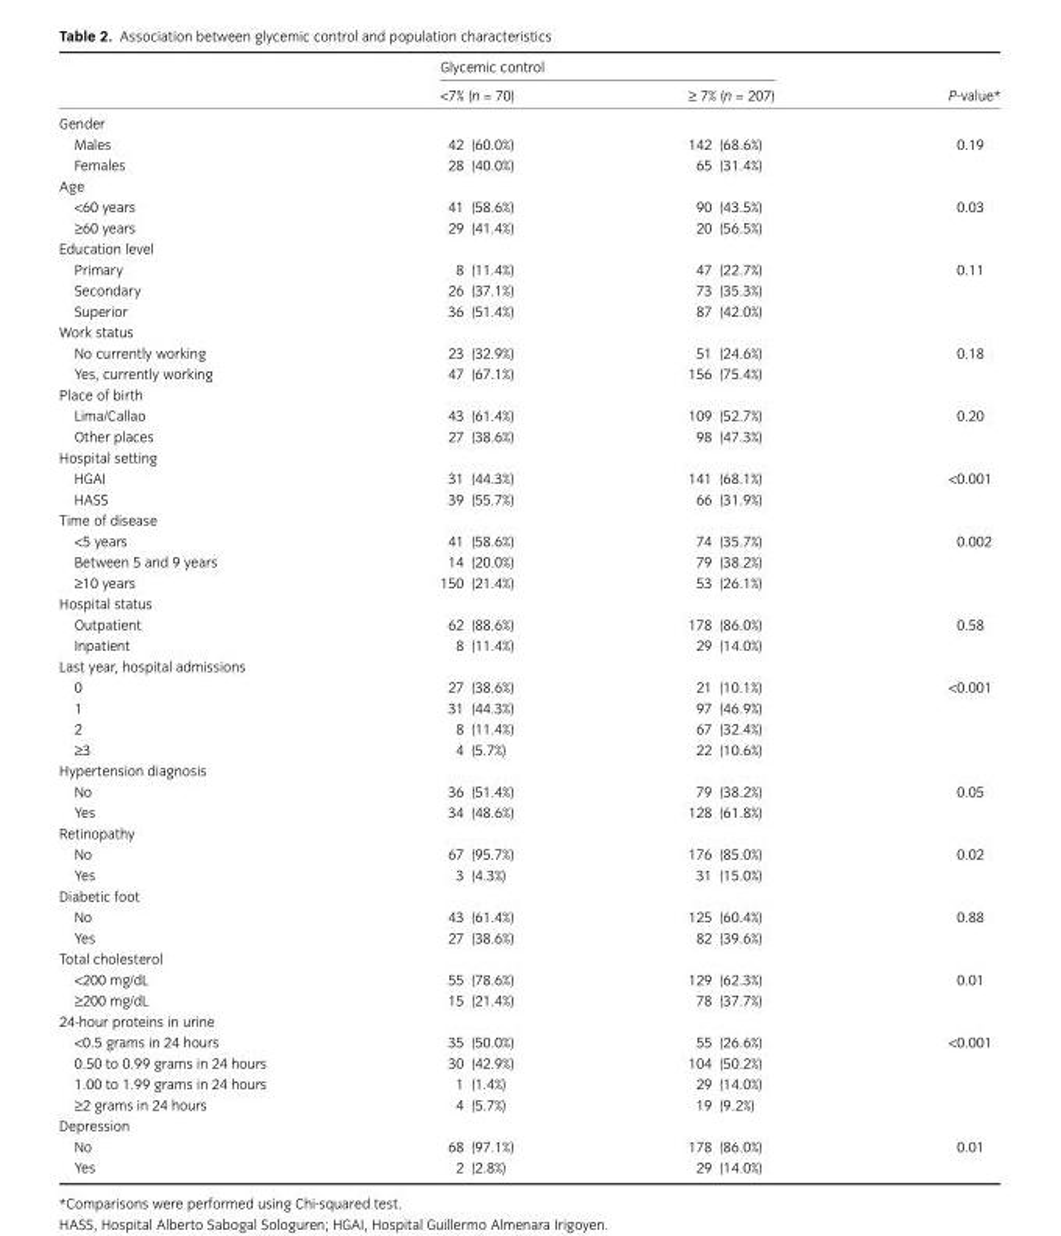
<table><thead><tr><td rowspan="2"></td><td colspan="2">Glycemic control</td><td rowspan="2">P-value*</td></tr><tr><td>&lt;7% (n = 70)</td><td>≥ 7% (n = 207)</td></tr></thead><tbody><tr><td colspan="4">Gender</td></tr><tr><td>Males</td><td>42 (60.0%)</td><td>142 (68.6%)</td><td>0.19</td></tr><tr><td>Females</td><td>28 (40.0%)</td><td>65 (31.4%)</td><td></td></tr><tr><td colspan="4">Age</td></tr><tr><td>&lt;60 years</td><td>41 (58.6%)</td><td>90 (43.5%)</td><td>0.03</td></tr><tr><td>≥60 years</td><td>29 (41.4%)</td><td>20 (56.5%)</td><td></td></tr><tr><td colspan="4">Education level</td></tr><tr><td>Primary</td><td>8 (11.4%)</td><td>47 (22.7%)</td><td>0.11</td></tr><tr><td>Secondary</td><td>26 (37.1%)</td><td>73 (35.3%)</td><td></td></tr><tr><td>Superior</td><td>36 (51.4%)</td><td>87 (42.0%)</td><td></td></tr><tr><td colspan="4">Work status</td></tr><tr><td>No currently working</td><td>23 (32.9%)</td><td>51 (24.6%)</td><td>0.18</td></tr><tr><td>Yes, currently working</td><td>47 (67.1%)</td><td>156 (75.4%)</td><td></td></tr><tr><td colspan="4">Place of birth</td></tr><tr><td>Lima/Callao</td><td>43 (61.4%)</td><td>109 (52.7%)</td><td>0.20</td></tr><tr><td>Other places</td><td>27 (38.6%)</td><td>98 (47.3%)</td><td></td></tr><tr><td colspan="4">Hospital setting</td></tr><tr><td>HGAI</td><td>31 (44.3%)</td><td>141 (68.1%)</td><td>&lt;0.001</td></tr><tr><td>HASS</td><td>39 (55.7%)</td><td>66 (31.9%)</td><td></td></tr><tr><td colspan="4">Time of disease</td></tr><tr><td>&lt;5 years</td><td>41 (58.6%)</td><td>74 (35.7%)</td><td>0.002</td></tr><tr><td>Between 5 and 9 years</td><td>14 (20.0%)</td><td>79 (38.2%)</td><td></td></tr><tr><td>≥10 years</td><td>150 (21.4%)</td><td>53 (26.1%)</td><td></td></tr><tr><td colspan="4">Hospital status</td></tr><tr><td>Outpatient</td><td>62 (88.6%)</td><td>178 (86.0%)</td><td>0.58</td></tr><tr><td>Inpatient</td><td>8 (11.4%)</td><td>29 (14.0%)</td><td></td></tr><tr><td colspan="4">Last year, hospital admissions</td></tr><tr><td>0</td><td>27 (38.6%)</td><td>21 (10.1%)</td><td>&lt;0.001</td></tr><tr><td>1</td><td>31 (44.3%)</td><td>97 (46.9%)</td><td></td></tr><tr><td>2</td><td>8 (11.4%)</td><td>67 (32.4%)</td><td></td></tr><tr><td>≥3</td><td>4 (5.7%)</td><td>22 (10.6%)</td><td></td></tr><tr><td colspan="4">Hypertension diagnosis</td></tr><tr><td>No</td><td>36 (51.4%)</td><td>79 (38.2%)</td><td>0.05</td></tr><tr><td>Yes</td><td>34 (48.6%)</td><td>128 (61.8%)</td><td></td></tr><tr><td colspan="4">Retinopathy</td></tr><tr><td>No</td><td>67 (95.7%)</td><td>176 (85.0%)</td><td>0.02</td></tr><tr><td>Yes</td><td>3 (4.3%)</td><td>31 (15.0%)</td><td></td></tr><tr><td colspan="4">Diabetic foot</td></tr><tr><td>No</td><td>43 (61.4%)</td><td>125 (60.4%)</td><td>0.88</td></tr><tr><td>Yes</td><td>27 (38.6%)</td><td>82 (39.6%)</td><td></td></tr><tr><td colspan="4">Total cholesterol</td></tr><tr><td>&lt;200 mg/dL</td><td>55 (78.6%)</td><td>129 (62.3%)</td><td>0.01</td></tr><tr><td>≥200 mg/dL</td><td>15 (21.4%)</td><td>78 (37.7%)</td><td></td></tr><tr><td colspan="4">24-hour proteins in urine</td></tr><tr><td>&lt;0.5 grams in 24 hours</td><td>35 (50.0%)</td><td>55 (26.6%)</td><td>&lt;0.001</td></tr><tr><td>0.50 to 0.99 grams in 24 hours</td><td>30 (42.9%)</td><td>104 (50.2%)</td><td></td></tr><tr><td>1.00 to 1.99 grams in 24 hours</td><td>1 (1.4%)</td><td>29 (14.0%)</td><td></td></tr><tr><td>≥2 grams in 24 hours</td><td>4 (5.7%)</td><td>19 (9.2%)</td><td></td></tr><tr><td colspan="4">Depression</td></tr><tr><td>No</td><td>68 (97.1%)</td><td>178 (86.0%)</td><td>0.01</td></tr><tr><td>Yes</td><td>2 (2.8%)</td><td>29 (14.0%)</td><td></td></tr></tbody></table>